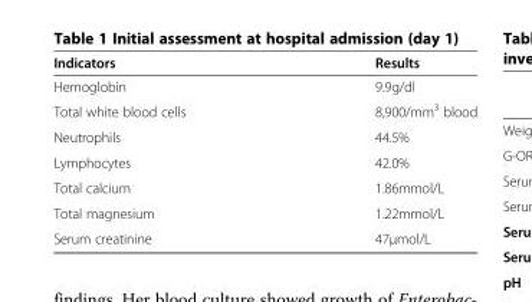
<table><thead><tr><td>Indicators</td><td>Results</td></tr></thead><tbody><tr><td>Hemoglobin</td><td>9.9g/dl</td></tr><tr><td>Total white blood cells</td><td>8,900/mm<sup>3</sup> blood</td></tr><tr><td>Neutrophils</td><td>44.5%</td></tr><tr><td>Lymphocytes</td><td>42.0%</td></tr><tr><td>Total calcium</td><td>1.86mmol/L</td></tr><tr><td>Total magnesium</td><td>1.22mmol/L</td></tr><tr><td>Serum creatinine</td><td>47μmol/L</td></tr></tbody></table>